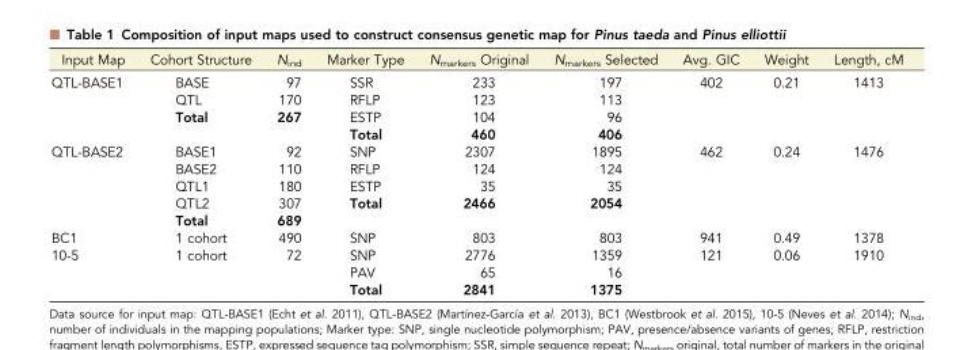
<table><thead><tr><td>Input Map</td><td>Cohort Structure</td><td>N<sub>ind</sub></td><td>Marker Type</td><td>N<sub>markers</sub> Original</td><td>N<sub>markers</sub> Selected</td><td>Avg. GIC</td><td>Weight</td><td>Length, cM</td></tr></thead><tbody><tr><td rowspan="4">QTL-BASE1</td><td>BASE</td><td>97</td><td>SSR</td><td>233</td><td>197</td><td>402</td><td>0.21</td><td>1413</td></tr><tr><td>QTL</td><td>170</td><td>RFLP</td><td>123</td><td>113</td><td></td><td></td><td></td></tr><tr><td>Total</td><td>267</td><td>ESTP</td><td>104</td><td>96</td><td></td><td></td><td></td></tr><tr><td></td><td></td><td>Total</td><td>460</td><td>406</td><td></td><td></td><td></td></tr><tr><td rowspan="5">QTL-BASE2</td><td>BASE1</td><td>92</td><td>SNP</td><td>2307</td><td>1895</td><td>462</td><td>0.24</td><td>1476</td></tr><tr><td>BASE2</td><td>110</td><td>RFLP</td><td>124</td><td>124</td><td></td><td></td><td></td></tr><tr><td>QTL1</td><td>180</td><td>ESTP</td><td>35</td><td>35</td><td></td><td></td><td></td></tr><tr><td>QTL2</td><td>307</td><td>Total</td><td>2466</td><td>2054</td><td></td><td></td><td></td></tr><tr><td>Total</td><td>689</td><td></td><td></td><td></td><td></td><td></td><td></td></tr><tr><td>BC1</td><td>1 cohort</td><td>490</td><td>SNP</td><td>803</td><td>803</td><td>941</td><td>0.49</td><td>1378</td></tr><tr><td rowspan="3">10-5</td><td>1 cohort</td><td>72</td><td>SNP</td><td>2776</td><td>1359</td><td>121</td><td>0.06</td><td>1910</td></tr><tr><td></td><td></td><td>PAV</td><td>65</td><td>16</td><td></td><td></td><td></td></tr><tr><td></td><td></td><td>Total</td><td>2841</td><td>1375</td><td></td><td></td><td></td></tr></tbody></table>